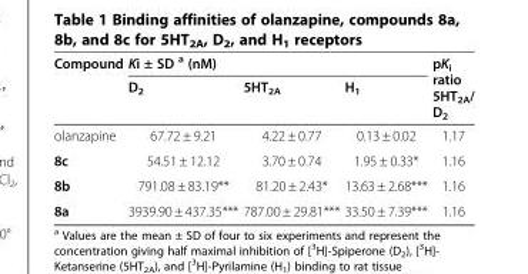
<table><thead><tr><td rowspan="2">Compound</td><td colspan="3">Ki ± SD <sup>a</sup> (nM)</td><td rowspan="2">pK<sub>i</sub> ratio 5HT<sub>2A</sub>/ D<sub>2</sub></td></tr><tr><td>D<sub>2</sub></td><td>5HT<sub>2A</sub></td><td>H<sub>1</sub></td></tr></thead><tbody><tr><td>olanzapine</td><td>67.72 ± 9.21</td><td>4.22 ± 0.77</td><td>0.13 ± 0.02</td><td>1.17</td></tr><tr><td>8c</td><td>54.51 ± 12.12</td><td>3.70 ± 0.74</td><td>1.95 ± 0.33*</td><td>1.16</td></tr><tr><td>8b</td><td>791.08 ± 83.19**</td><td>81.20 ± 2.43*</td><td>13.63 ± 2.68***</td><td>1.16</td></tr><tr><td>8a</td><td>3939.90 ± 437.35***</td><td>787.00 ± 29.81***</td><td>33.50 ± 7.39***</td><td>1.16</td></tr></tbody></table>